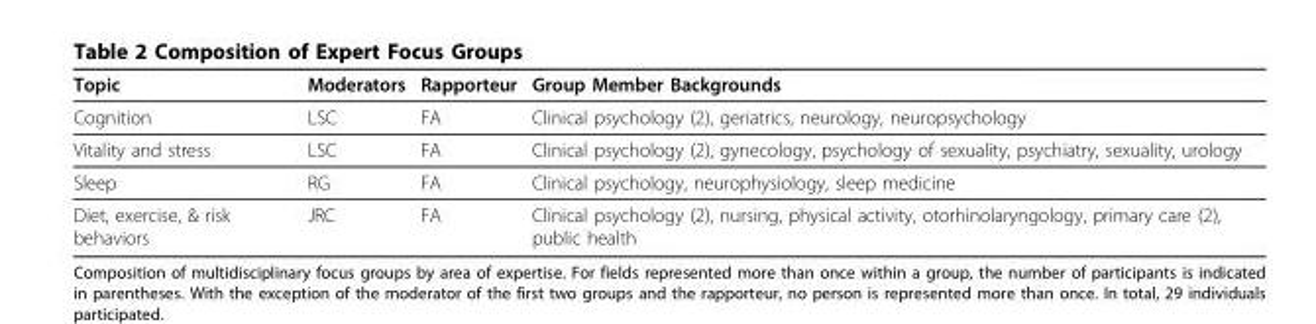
<table><thead><tr><td>Topic</td><td>Moderators</td><td>Rapporteur</td><td>Group Member Backgrounds</td></tr></thead><tbody><tr><td>Cognition</td><td>LSC</td><td>FA</td><td>Clinical psychology (2), geriatrics, neurology, neuropsychology</td></tr><tr><td>Vitality and stress</td><td>LSC</td><td>FA</td><td>Clinical psychology (2), gynecology, psychology of sexuality, psychiatry, sexuality, urology</td></tr><tr><td>Sleep</td><td>RG</td><td>FA</td><td>Clinical psychology, neurophysiology, sleep medicine</td></tr><tr><td>Diet, exercise, &amp; risk behaviors</td><td>JRC</td><td>FA</td><td>Clinical psychology (2), nursing, physical activity, otorhinolaryngology, primary care (2), public health</td></tr></tbody></table>